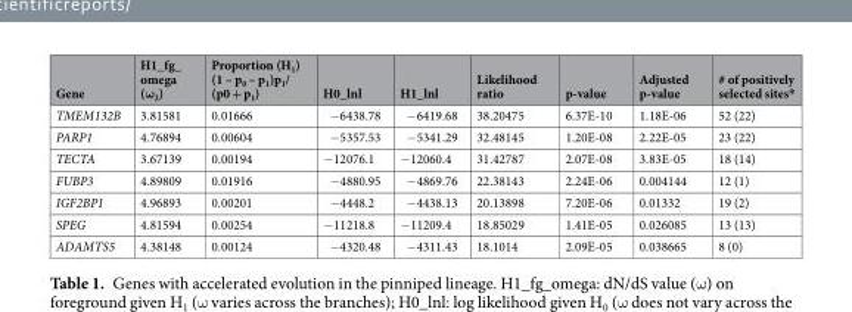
<table><thead><tr><td>Gene</td><td>H1_fg_ omega (ω<sub>2</sub>)</td><td>Proportion (H<sub>1</sub>) (1 – p<sub>0</sub> – p<sub>1</sub>)p<sub>1</sub>/ (p0 + p<sub>1</sub>)</td><td>H0_lnl</td><td>H1_lnl</td><td>Likelihood ratio</td><td>p-value</td><td>Adjusted p-value</td><td># of positively selected sites*</td></tr></thead><tbody><tr><td>TMEM132B</td><td>3.81581</td><td>0.01666</td><td>−6438.78</td><td>−6419.68</td><td>38.20475</td><td>6.37E-10</td><td>1.18E-06</td><td>52 (22)</td></tr><tr><td>PARP1</td><td>4.76894</td><td>0.00604</td><td>−5357.53</td><td>−5341.29</td><td>32.48145</td><td>1.20E-08</td><td>2.22E-05</td><td>23 (22)</td></tr><tr><td>TECTA</td><td>3.67139</td><td>0.00194</td><td>−12076.1</td><td>−12060.4</td><td>31.42787</td><td>2.07E-08</td><td>3.83E-05</td><td>18 (14)</td></tr><tr><td>FUBP3</td><td>4.89809</td><td>0.01916</td><td>−4880.95</td><td>−4869.76</td><td>22.38143</td><td>2.24E-06</td><td>0.004144</td><td>12 (1)</td></tr><tr><td>IGF2BP1</td><td>4.96893</td><td>0.00201</td><td>−4448.2</td><td>−4438.13</td><td>20.13898</td><td>7.20E-06</td><td>0.01332</td><td>19 (2)</td></tr><tr><td>SPEG</td><td>4.81594</td><td>0.00254</td><td>−11218.8</td><td>−11209.4</td><td>18.85029</td><td>1.41E-05</td><td>0.026085</td><td>13 (13)</td></tr><tr><td>ADAMTS5</td><td>4.38148</td><td>0.00124</td><td>−4320.48</td><td>−4311.43</td><td>18.1014</td><td>2.09E-05</td><td>0.038665</td><td>8 (0)</td></tr></tbody></table>